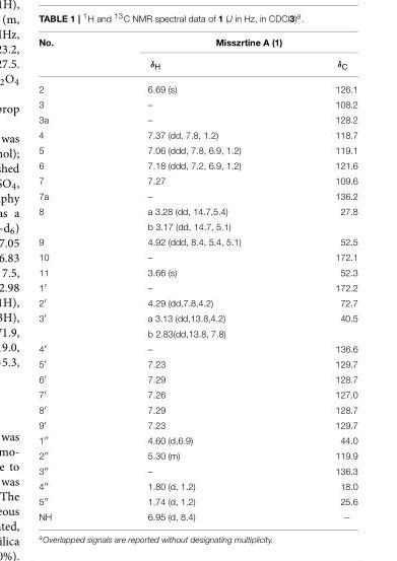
<table><thead><tr><td rowspan="2">No.</td><td colspan="2">Misszrtine A (1)</td></tr><tr><td>δ<sub>H</sub></td><td>δ<sub>C</sub></td></tr></thead><tbody><tr><td>2</td><td>6.69 (s)</td><td>126.1</td></tr><tr><td>3</td><td>–</td><td>108.2</td></tr><tr><td>3a</td><td>–</td><td>128.2</td></tr><tr><td>4</td><td>7.37 (dd, 7.8, 1.2)</td><td>118.7</td></tr><tr><td>5</td><td>7.06 (ddd, 7.8, 6.9, 1.2)</td><td>119.1</td></tr><tr><td>6</td><td>7.18 (ddd, 7.2, 6.9, 1.2)</td><td>121.6</td></tr><tr><td>7</td><td>7.27</td><td>109.6</td></tr><tr><td>7a</td><td>–</td><td>136.2</td></tr><tr><td rowspan="2">8</td><td>a 3.28 (dd, 14.7,5.4)</td><td>27.8</td></tr><tr><td>b 3.17 (dd, 14.7, 5.1)</td><td></td></tr><tr><td>9</td><td>4.92 (ddd, 8.4, 5.4, 5.1)</td><td>52.5</td></tr><tr><td>10</td><td>–</td><td>172.1</td></tr><tr><td>11</td><td>3.66 (s)</td><td>52.3</td></tr><tr><td>1′</td><td>–</td><td>172.2</td></tr><tr><td>2′</td><td>4.29 (dd,7.8,4.2)</td><td>72.7</td></tr><tr><td rowspan="2">3′</td><td>a 3.13 (dd,13.8,4.2)</td><td>40.5</td></tr><tr><td>b 2.83(dd,13.8, 7.8)</td><td></td></tr><tr><td>4′</td><td>–</td><td>136.6</td></tr><tr><td>5′</td><td>7.23</td><td>129.7</td></tr><tr><td>6′</td><td>7.29</td><td>128.7</td></tr><tr><td>7′</td><td>7.26</td><td>127.0</td></tr><tr><td>8′</td><td>7.29</td><td>128.7</td></tr><tr><td>9′</td><td>7.23</td><td>129.7</td></tr><tr><td>1′′</td><td>4.60 (d,6.9)</td><td>44.0</td></tr><tr><td>2′′</td><td>5.30 (m)</td><td>119.9</td></tr><tr><td>3′′</td><td>–</td><td>136.3</td></tr><tr><td>4′′</td><td>1.80 (d, 1.2)</td><td>18.0</td></tr><tr><td>5′′</td><td>1.74 (d, 1.2)</td><td>25.6</td></tr><tr><td>NH</td><td>6.95 (d, 8.4)</td><td>−</td></tr></tbody></table>